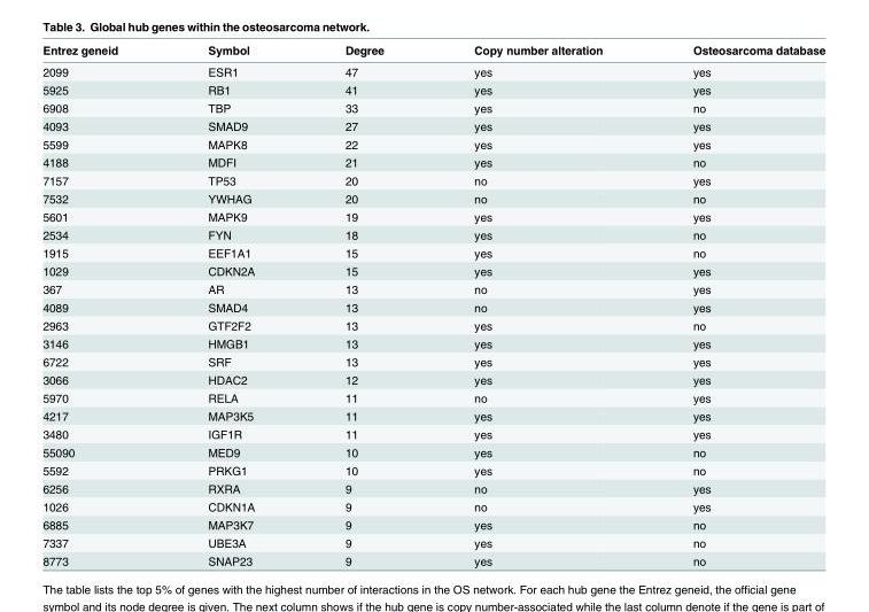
<table><thead><tr><td>Entrez geneid</td><td>Symbol</td><td>Degree</td><td>Copy number alteration</td><td>Osteosarcoma database</td></tr></thead><tbody><tr><td>2099</td><td>ESR1</td><td>47</td><td>yes</td><td>yes</td></tr><tr><td>5925</td><td>RB1</td><td>41</td><td>yes</td><td>yes</td></tr><tr><td>6908</td><td>TBP</td><td>33</td><td>yes</td><td>no</td></tr><tr><td>4093</td><td>SMAD9</td><td>27</td><td>yes</td><td>yes</td></tr><tr><td>5599</td><td>MAPK8</td><td>22</td><td>yes</td><td>yes</td></tr><tr><td>4188</td><td>MDFI</td><td>21</td><td>yes</td><td>no</td></tr><tr><td>7157</td><td>TP53</td><td>20</td><td>no</td><td>yes</td></tr><tr><td>7532</td><td>YWHAG</td><td>20</td><td>no</td><td>no</td></tr><tr><td>5601</td><td>MAPK9</td><td>19</td><td>yes</td><td>yes</td></tr><tr><td>2534</td><td>FYN</td><td>18</td><td>yes</td><td>no</td></tr><tr><td>1915</td><td>EEF1A1</td><td>15</td><td>yes</td><td>no</td></tr><tr><td>1029</td><td>CDKN2A</td><td>15</td><td>yes</td><td>yes</td></tr><tr><td>367</td><td>AR</td><td>13</td><td>no</td><td>yes</td></tr><tr><td>4089</td><td>SMAD4</td><td>13</td><td>no</td><td>yes</td></tr><tr><td>2963</td><td>GTF2F2</td><td>13</td><td>yes</td><td>no</td></tr><tr><td>3146</td><td>HMGB1</td><td>13</td><td>yes</td><td>yes</td></tr><tr><td>6722</td><td>SRF</td><td>13</td><td>yes</td><td>yes</td></tr><tr><td>3066</td><td>HDAC2</td><td>12</td><td>yes</td><td>yes</td></tr><tr><td>5970</td><td>RELA</td><td>11</td><td>no</td><td>yes</td></tr><tr><td>4217</td><td>MAP3K5</td><td>11</td><td>yes</td><td>yes</td></tr><tr><td>3480</td><td>IGF1R</td><td>11</td><td>yes</td><td>yes</td></tr><tr><td>55090</td><td>MED9</td><td>10</td><td>yes</td><td>no</td></tr><tr><td>5592</td><td>PRKG1</td><td>10</td><td>yes</td><td>no</td></tr><tr><td>6256</td><td>RXRA</td><td>9</td><td>no</td><td>yes</td></tr><tr><td>1026</td><td>CDKN1A</td><td>9</td><td>no</td><td>yes</td></tr><tr><td>6885</td><td>MAP3K7</td><td>9</td><td>yes</td><td>no</td></tr><tr><td>7337</td><td>UBE3A</td><td>9</td><td>yes</td><td>no</td></tr><tr><td>8773</td><td>SNAP23</td><td>9</td><td>yes</td><td>no</td></tr></tbody></table>